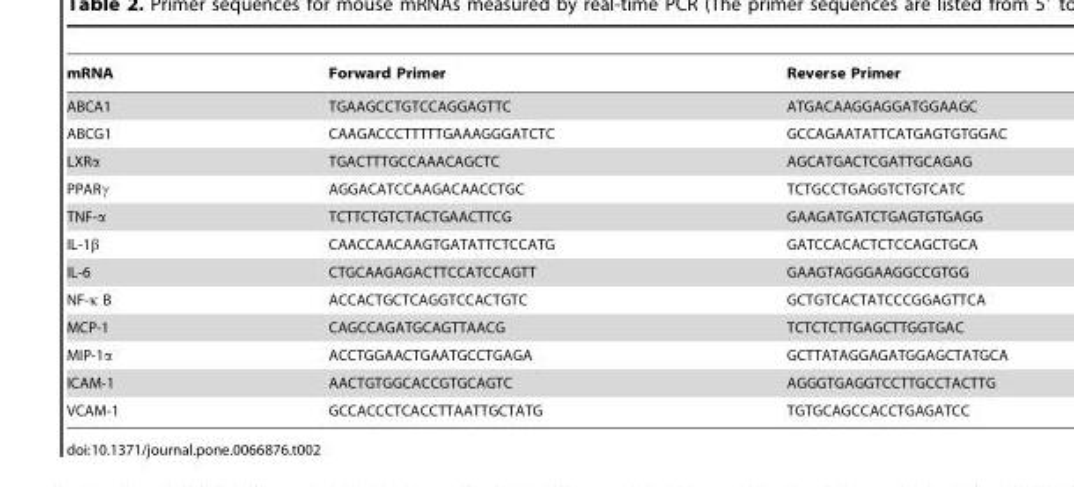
<table><thead><tr><td>mRNA</td><td>Forward Primer</td><td>Reverse Primer</td></tr></thead><tbody><tr><td>ABCA1</td><td>TGAAGCCTGTCCAGGAGTTC</td><td>ATGACAAGGAGGATGGAAGC</td></tr><tr><td>ABCG1</td><td>CAAGACCCTTTTTGAAAGGGATCTC</td><td>GCCAGAATATTCATGAGTGTGGAC</td></tr><tr><td>LXRα</td><td>TGACTTTGCCAAACAGCTC</td><td>AGCATGACTCGATTGCAGAG</td></tr><tr><td>PPARγ</td><td>AGGACATCCAAGACAACCTGC</td><td>TCTGCCTGAGGTCTGTCATC</td></tr><tr><td>TNF-α</td><td>TCTTCTGTCTACTGAACTTCG</td><td>GAAGATGATCTGAGTGTGAGG</td></tr><tr><td>IL-1β</td><td>CAACCAACAAGTGATATTCTCCATG</td><td>GATCCACACTCTCCAGCTGCA</td></tr><tr><td>IL-6</td><td>CTGCAAGAGACTTCCATCCAGTT</td><td>GAAGTAGGGAAGGCCGTGG</td></tr><tr><td>NF-κ B</td><td>ACCACTGCTCAGGTCCACTGTC</td><td>GCTGTCACTATCCCGGAGTTCA</td></tr><tr><td>MCP-1</td><td>CAGCCAGATGCAGTTAACG</td><td>TCTCTCTTGAGCTTGGTGAC</td></tr><tr><td>MIP-1α</td><td>ACCTGGAACTGAATGCCTGAGA</td><td>GCTTATAGGAGATGGAGCTATGCA</td></tr><tr><td>ICAM-1</td><td>AACTGTGGCACCGTGCAGTC</td><td>AGGGTGAGGTCCTTGCCTACTTG</td></tr><tr><td>VCAM-1</td><td>GCCACCCTCACCTTAATTGCTATG</td><td>TGTGCAGCCACCTGAGATCC</td></tr></tbody></table>